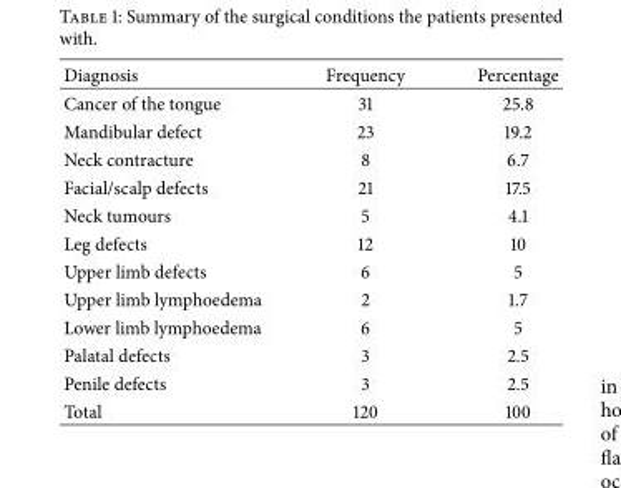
<table><thead><tr><td>Diagnosis</td><td>Frequency</td><td>Percentage</td></tr></thead><tbody><tr><td>Cancer of the tongue</td><td>31</td><td>25.8</td></tr><tr><td>Mandibular defect</td><td>23</td><td>19.2</td></tr><tr><td>Neck contracture</td><td>8</td><td>6.7</td></tr><tr><td>Facial/scalp defects</td><td>21</td><td>17.5</td></tr><tr><td>Neck tumours</td><td>5</td><td>4.1</td></tr><tr><td>Leg defects</td><td>12</td><td>10</td></tr><tr><td>Upper limb defects</td><td>6</td><td>5</td></tr><tr><td>Upper limb lymphoedema</td><td>2</td><td>1.7</td></tr><tr><td>Lower limb lymphoedema</td><td>6</td><td>5</td></tr><tr><td>Palatal defects</td><td>3</td><td>2.5</td></tr><tr><td>Penile defects</td><td>3</td><td>2.5</td></tr><tr><td>Total</td><td>120</td><td>100</td></tr></tbody></table>